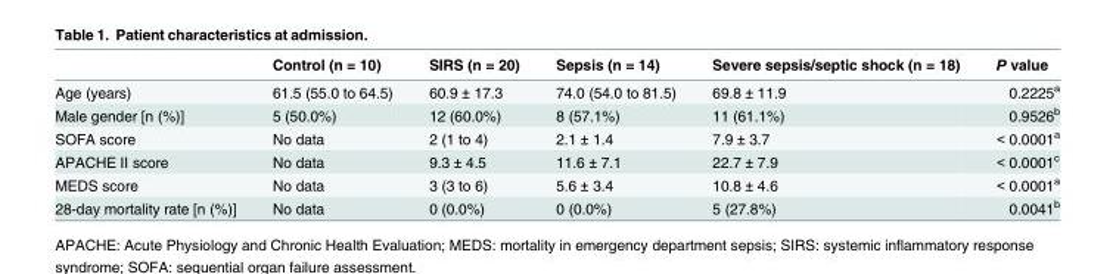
<table><thead><tr><td></td><td>Control (n = 10)</td><td>SIRS (n = 20)</td><td>Sepsis (n = 14)</td><td>Severe sepsis/septic shock (n = 18)</td><td>P value</td></tr></thead><tbody><tr><td>Age (years)</td><td>61.5 (55.0 to 64.5)</td><td>60.9 ± 17.3</td><td>74.0 (54.0 to 81.5)</td><td>69.8 ± 11.9</td><td>0.2225<sup>a</sup></td></tr><tr><td>Male gender [n (%)]</td><td>5 (50.0%)</td><td>12 (60.0%)</td><td>8 (57.1%)</td><td>11 (61.1%)</td><td>0.9526<sup>b</sup></td></tr><tr><td>SOFA score</td><td>No data</td><td>2 (1 to 4)</td><td>2.1 ± 1.4</td><td>7.9 ± 3.7</td><td>&lt; 0.0001<sup>a</sup></td></tr><tr><td>APACHE II score</td><td>No data</td><td>9.3 ± 4.5</td><td>11.6 ± 7.1</td><td>22.7 ± 7.9</td><td>&lt; 0.0001<sup>c</sup></td></tr><tr><td>MEDS score</td><td>No data</td><td>3 (3 to 6)</td><td>5.6 ± 3.4</td><td>10.8 ± 4.6</td><td>&lt; 0.0001<sup>a</sup></td></tr><tr><td>28-day mortality rate [n (%)]</td><td>No data</td><td>0 (0.0%)</td><td>0 (0.0%)</td><td>5 (27.8%)</td><td>0.0041<sup>b</sup></td></tr></tbody></table>